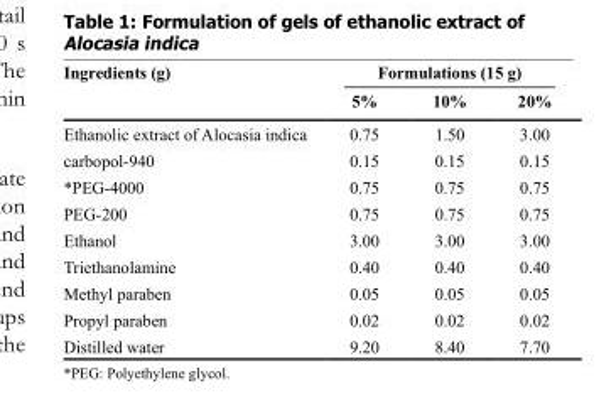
<table><thead><tr><td rowspan="2">Ingredients (g)</td><td colspan="3">Formulations (15 g)</td></tr><tr><td>5%</td><td>10%</td><td>20%</td></tr></thead><tbody><tr><td>Ethanolic extract of Alocasia indica</td><td>0.75</td><td>1.50</td><td>3.00</td></tr><tr><td>carbopol-940</td><td>0.15</td><td>0.15</td><td>0.15</td></tr><tr><td>*PEG-4000</td><td>0.75</td><td>0.75</td><td>0.75</td></tr><tr><td>PEG-200</td><td>0.75</td><td>0.75</td><td>0.75</td></tr><tr><td>Ethanol</td><td>3.00</td><td>3.00</td><td>3.00</td></tr><tr><td>Triethanolamine</td><td>0.40</td><td>0.40</td><td>0.40</td></tr><tr><td>Methyl paraben</td><td>0.05</td><td>0.05</td><td>0.05</td></tr><tr><td>Propyl paraben</td><td>0.02</td><td>0.02</td><td>0.02</td></tr><tr><td>Distilled water</td><td>9.20</td><td>8.40</td><td>7.70</td></tr></tbody></table>